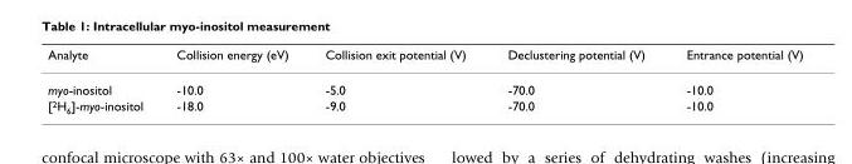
<table><thead><tr><td>Analyte</td><td>Collision energy (eV)</td><td>Collision exit potential (V)</td><td>Declustering potential (V)</td><td>Entrance potential (V)</td></tr></thead><tbody><tr><td>myo-inositol</td><td>-10.0</td><td>-5.0</td><td>-70.0</td><td>-10.0</td></tr><tr><td>[<sup>2</sup>H<sub>6</sub>]-myo-inositol</td><td>-18.0</td><td>-9.0</td><td>-70.0</td><td>-10.0</td></tr></tbody></table>